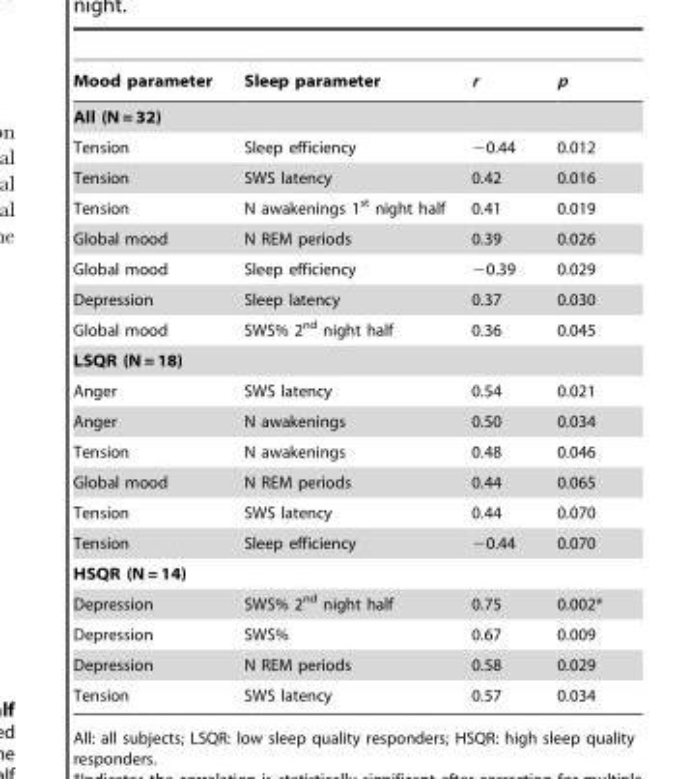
<table><thead><tr><td>Mood parameter</td><td>Sleep parameter</td><td>r</td><td>p</td></tr></thead><tbody><tr><td colspan="4">All (N = 32)</td></tr><tr><td>Tension</td><td>Sleep efficiency</td><td>−0.44</td><td>0.012</td></tr><tr><td>Tension</td><td>SWS latency</td><td>0.42</td><td>0.016</td></tr><tr><td>Tension</td><td>N awakenings 1<sup>st</sup> night half</td><td>0.41</td><td>0.019</td></tr><tr><td>Global mood</td><td>N REM periods</td><td>0.39</td><td>0.026</td></tr><tr><td>Global mood</td><td>Sleep efficiency</td><td>−0.39</td><td>0.029</td></tr><tr><td>Depression</td><td>Sleep latency</td><td>0.37</td><td>0.030</td></tr><tr><td>Global mood</td><td>SWS% 2<sup>nd</sup> night half</td><td>0.36</td><td>0.045</td></tr><tr><td colspan="4">LSQR (N = 18)</td></tr><tr><td>Anger</td><td>SWS latency</td><td>0.54</td><td>0.021</td></tr><tr><td>Anger</td><td>N awakenings</td><td>0.50</td><td>0.034</td></tr><tr><td>Tension</td><td>N awakenings</td><td>0.48</td><td>0.046</td></tr><tr><td>Global mood</td><td>N REM periods</td><td>0.44</td><td>0.065</td></tr><tr><td>Tension</td><td>SWS latency</td><td>0.44</td><td>0.070</td></tr><tr><td>Tension</td><td>Sleep efficiency</td><td>−0.44</td><td>0.070</td></tr><tr><td colspan="4">HSQR (N = 14)</td></tr><tr><td>Depression</td><td>SWS% 2<sup>nd</sup> night half</td><td>0.75</td><td>0.002*</td></tr><tr><td>Depression</td><td>SWS%</td><td>0.67</td><td>0.009</td></tr><tr><td>Depression</td><td>N REM periods</td><td>0.58</td><td>0.029</td></tr><tr><td>Tension</td><td>SWS latency</td><td>0.57</td><td>0.034</td></tr></tbody></table>